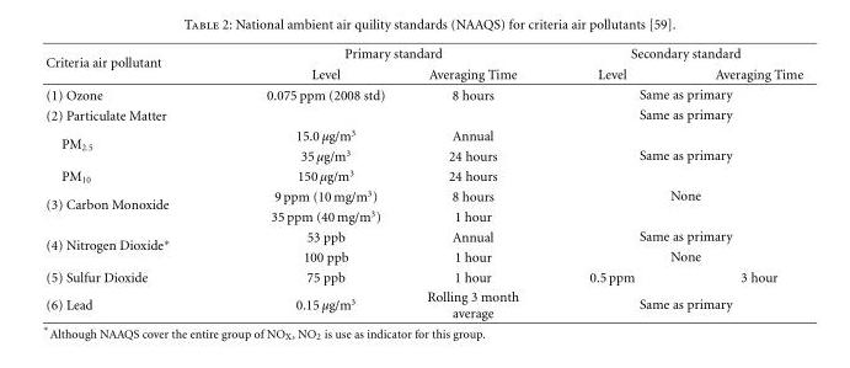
<table><thead><tr><td rowspan="2">Criteria air pollutant</td><td colspan="2">Primary standard</td><td colspan="2">Secondary standard</td></tr><tr><td>Level</td><td>Averaging Time</td><td>Level</td><td>Averaging Time</td></tr></thead><tbody><tr><td>(1) Ozone</td><td>0.075 ppm (2008 std)</td><td>8 hours</td><td colspan="2">Same as primary</td></tr><tr><td>(2) Particulate Matter</td><td></td><td></td><td colspan="2">Same as primary</td></tr><tr><td rowspan="2">PM<sub>2.5</sub></td><td>15.0 μg/m<sup>3</sup></td><td>Annual</td><td colspan="2"></td></tr><tr><td>35 μg/m<sup>3</sup></td><td>24 hours</td><td colspan="2">Same as primary</td></tr><tr><td>PM<sub>10</sub></td><td>150 μg/m<sup>3</sup></td><td>24 hours</td><td colspan="2"></td></tr><tr><td rowspan="2">(3) Carbon Monoxide</td><td>9 ppm (10 mg/m<sup>3</sup>)</td><td>8 hours</td><td colspan="2">None</td></tr><tr><td>35 ppm (40 mg/m<sup>3</sup>)</td><td>1 hour</td><td colspan="2"></td></tr><tr><td rowspan="2">(4) Nitrogen Dioxide∗</td><td>53 ppb</td><td>Annual</td><td colspan="2">Same as primary</td></tr><tr><td>100 ppb</td><td>1 hour</td><td colspan="2">None</td></tr><tr><td>(5) Sulfur Dioxide</td><td>75 ppb</td><td>1 hour</td><td>0.5 ppm</td><td>3 hour</td></tr><tr><td>(6) Lead</td><td>0.15 μg/m<sup>3</sup></td><td>Rolling 3 month average</td><td colspan="2">Same as primary</td></tr></tbody></table>